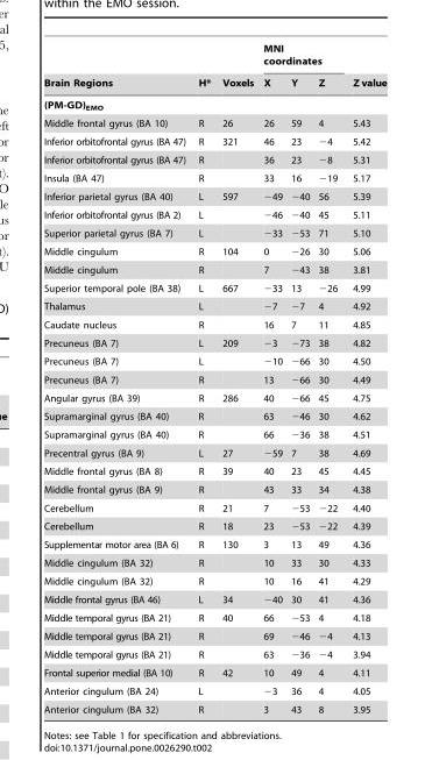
<table><thead><tr><td rowspan="2">Brain Regions</td><td rowspan="2">H*</td><td rowspan="2">Voxels</td><td colspan="3">MNI coordinates</td><td rowspan="2">Z value</td></tr><tr><td>X</td><td>Y</td><td>Z</td></tr></thead><tbody><tr><td colspan="7">(PM-GD)<sub>EMO</sub></td></tr><tr><td>Middle frontal gyrus (BA 10)</td><td>R</td><td>26</td><td>26</td><td>59</td><td>4</td><td>5.43</td></tr><tr><td>Inferior orbitofrontal gyrus (BA 47)</td><td>R</td><td>321</td><td>46</td><td>23</td><td>−4</td><td>5.42</td></tr><tr><td>Inferior orbitofrontal gyrus (BA 47)</td><td>R</td><td></td><td>36</td><td>23</td><td>−8</td><td>5.31</td></tr><tr><td>Insula (BA 47)</td><td>R</td><td></td><td>33</td><td>16</td><td>−19</td><td>5.17</td></tr><tr><td>Inferior parietal gyrus (BA 40)</td><td>L</td><td>597</td><td>−49</td><td>−40</td><td>56</td><td>5.39</td></tr><tr><td>Inferior orbitofrontal gyrus (BA 2)</td><td>L</td><td></td><td>−46</td><td>−40</td><td>45</td><td>5.11</td></tr><tr><td>Superior parietal gyrus (BA 7)</td><td>L</td><td></td><td>−33</td><td>−53</td><td>71</td><td>5.10</td></tr><tr><td>Middle cingulum</td><td>R</td><td>104</td><td>0</td><td>−26</td><td>30</td><td>5.06</td></tr><tr><td>Middle cingulum</td><td>R</td><td></td><td>7</td><td>−43</td><td>38</td><td>3.81</td></tr><tr><td>Superior temporal pole (BA 38)</td><td>L</td><td>667</td><td>−33</td><td>13</td><td>−26</td><td>4.99</td></tr><tr><td>Thalamus</td><td>L</td><td></td><td>−7</td><td>−7</td><td>4</td><td>4.92</td></tr><tr><td>Caudate nucleus</td><td>R</td><td></td><td>16</td><td>7</td><td>11</td><td>4.85</td></tr><tr><td>Precuneus (BA 7)</td><td>L</td><td>209</td><td>−3</td><td>−73</td><td>38</td><td>4.82</td></tr><tr><td>Precuneus (BA 7)</td><td>L</td><td></td><td>−10</td><td>−66</td><td>30</td><td>4.50</td></tr><tr><td>Precuneus (BA 7)</td><td>R</td><td></td><td>13</td><td>−66</td><td>30</td><td>4.49</td></tr><tr><td>Angular gyrus (BA 39)</td><td>R</td><td>286</td><td>40</td><td>−66</td><td>45</td><td>4.75</td></tr><tr><td>Supramarginal gyrus (BA 40)</td><td>R</td><td></td><td>63</td><td>−46</td><td>30</td><td>4.62</td></tr><tr><td>Supramarginal gyrus (BA 40)</td><td>R</td><td></td><td>66</td><td>−36</td><td>38</td><td>4.51</td></tr><tr><td>Precentral gyrus (BA 9)</td><td>L</td><td>27</td><td>−59</td><td>7</td><td>38</td><td>4.69</td></tr><tr><td>Middle frontal gyrus (BA 8)</td><td>R</td><td>39</td><td>40</td><td>23</td><td>45</td><td>4.45</td></tr><tr><td>Middle frontal gyrus (BA 9)</td><td>R</td><td></td><td>43</td><td>33</td><td>34</td><td>4.38</td></tr><tr><td>Cerebellum</td><td>R</td><td>21</td><td>7</td><td>−53</td><td>−22</td><td>4.40</td></tr><tr><td>Cerebellum</td><td>R</td><td>18</td><td>23</td><td>−53</td><td>−22</td><td>4.39</td></tr><tr><td>Supplementar motor area (BA 6)</td><td>R</td><td>130</td><td>3</td><td>13</td><td>49</td><td>4.36</td></tr><tr><td>Middle cingulum (BA 32)</td><td>R</td><td></td><td>10</td><td>33</td><td>30</td><td>4.33</td></tr><tr><td>Middle cingulum (BA 32)</td><td>R</td><td></td><td>10</td><td>16</td><td>41</td><td>4.29</td></tr><tr><td>Middle frontal gyrus (BA 46)</td><td>L</td><td>34</td><td>−40</td><td>30</td><td>41</td><td>4.36</td></tr><tr><td>Middle temporal gyrus (BA 21)</td><td>R</td><td>40</td><td>66</td><td>−53</td><td>4</td><td>4.18</td></tr><tr><td>Middle temporal gyrus (BA 21)</td><td>R</td><td></td><td>69</td><td>−46</td><td>−4</td><td>4.13</td></tr><tr><td>Middle temporal gyrus (BA 21)</td><td>R</td><td></td><td>63</td><td>−36</td><td>−4</td><td>3.94</td></tr><tr><td>Frontal superior medial (BA 10)</td><td>R</td><td>42</td><td>10</td><td>49</td><td>4</td><td>4.11</td></tr><tr><td>Anterior cingulum (BA 24)</td><td>L</td><td></td><td>−3</td><td>36</td><td>4</td><td>4.05</td></tr><tr><td>Anterior cingulum (BA 32)</td><td>R</td><td></td><td>3</td><td>43</td><td>8</td><td>3.95</td></tr></tbody></table>